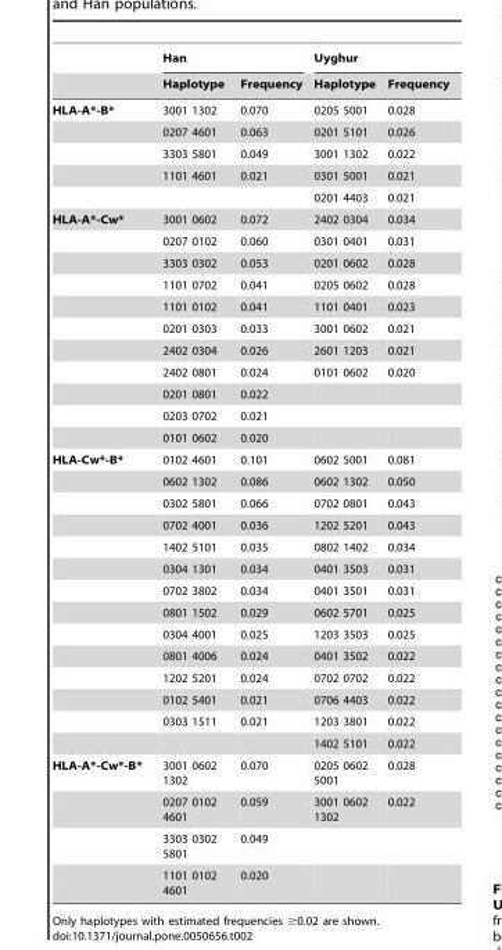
<table><thead><tr><td rowspan="2"></td><td colspan="2">Han</td><td colspan="2">Uyghur</td></tr><tr><td>Haplotype</td><td>Frequency</td><td>Haplotype</td><td>Frequency</td></tr></thead><tbody><tr><td rowspan="5">HLA-A*-B*</td><td>3001 1302</td><td>0.070</td><td>0205 5001</td><td>0.028</td></tr><tr><td>0207 4601</td><td>0.063</td><td>0201 5101</td><td>0.026</td></tr><tr><td>3303 5801</td><td>0.049</td><td>3001 1302</td><td>0.022</td></tr><tr><td>1101 4601</td><td>0.021</td><td>0301 5001</td><td>0.021</td></tr><tr><td></td><td></td><td>0201 4403</td><td>0.021</td></tr><tr><td rowspan="11">HLA-A*-Cw*</td><td>3001 0602</td><td>0.072</td><td>2402 0304</td><td>0.034</td></tr><tr><td>0207 0102</td><td>0.060</td><td>0301 0401</td><td>0.031</td></tr><tr><td>3303 0302</td><td>0.053</td><td>0201 0602</td><td>0.028</td></tr><tr><td>1101 0702</td><td>0.041</td><td>0205 0602</td><td>0.028</td></tr><tr><td>1101 0102</td><td>0.041</td><td>1101 0401</td><td>0.023</td></tr><tr><td>0201 0303</td><td>0.033</td><td>3001 0602</td><td>0.021</td></tr><tr><td>2402 0304</td><td>0.026</td><td>2601 1203</td><td>0.021</td></tr><tr><td>2402 0801</td><td>0.024</td><td>0101 0602</td><td>0.020</td></tr><tr><td>0201 0801</td><td>0.022</td><td></td><td></td></tr><tr><td>0203 0702</td><td>0.021</td><td></td><td></td></tr><tr><td>0101 0602</td><td>0.020</td><td></td><td></td></tr><tr><td rowspan="14">HLA-Cw*-B*</td><td>0102 4601</td><td>0.101</td><td>0602 5001</td><td>0.081</td></tr><tr><td>0602 1302</td><td>0.086</td><td>0602 1302</td><td>0.050</td></tr><tr><td>0302 5801</td><td>0.066</td><td>0702 0801</td><td>0.043</td></tr><tr><td>0702 4001</td><td>0.036</td><td>1202 5201</td><td>0.043</td></tr><tr><td>1402 5101</td><td>0.035</td><td>0802 1402</td><td>0.034</td></tr><tr><td>0304 1301</td><td>0.034</td><td>0401 3503</td><td>0.031</td></tr><tr><td>0702 3802</td><td>0.034</td><td>0401 3501</td><td>0.031</td></tr><tr><td>0801 1502</td><td>0.029</td><td>0602 5701</td><td>0.025</td></tr><tr><td>0304 4001</td><td>0.025</td><td>1203 3503</td><td>0.025</td></tr><tr><td>0801 4006</td><td>0.024</td><td>0401 3502</td><td>0.022</td></tr><tr><td>1202 5201</td><td>0.024</td><td>0702 0702</td><td>0.022</td></tr><tr><td>0102 5401</td><td>0.021</td><td>0706 4403</td><td>0.022</td></tr><tr><td>0303 1511</td><td>0.021</td><td>1203 3801</td><td>0.022</td></tr><tr><td></td><td></td><td>1402 5101</td><td>0.022</td></tr><tr><td rowspan="4">HLA-A*-Cw*-B*</td><td>3001 0602 1302</td><td>0.070</td><td>0205 0602 5001</td><td>0.028</td></tr><tr><td>0207 0102 4601</td><td>0.059</td><td>3001 0602 1302</td><td>0.022</td></tr><tr><td>3303 0302 5801</td><td>0.049</td><td></td><td></td></tr><tr><td>1101 0102 4601</td><td>0.020</td><td></td><td></td></tr></tbody></table>